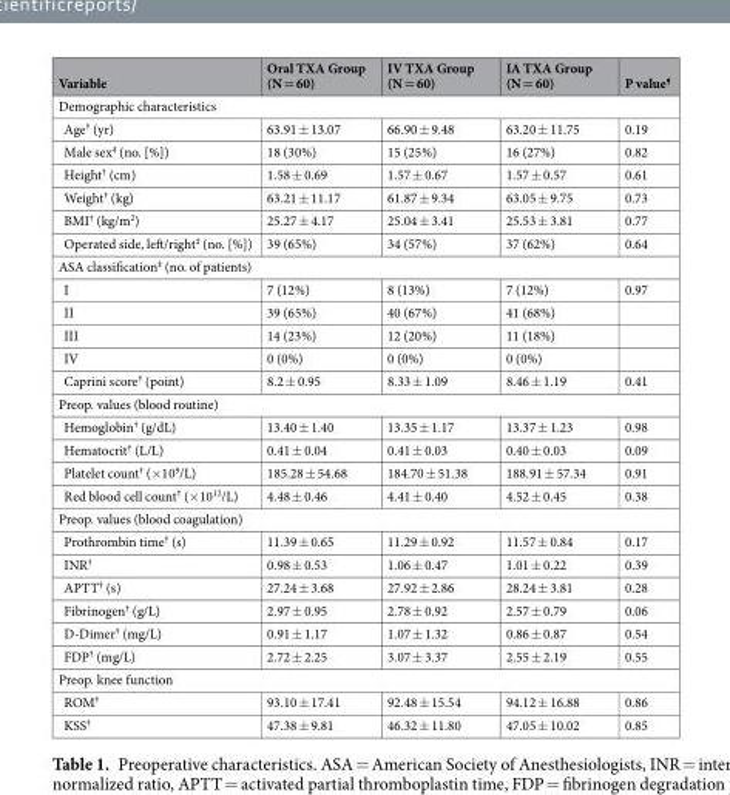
<table><thead><tr><td>Variable</td><td>Oral TXA Group (N = 60)</td><td>IV TXA Group (N = 60)</td><td>IA TXA Group (N = 60)</td><td>P value<sup>¶</sup></td></tr></thead><tbody><tr><td colspan="5">Demographic characteristics</td></tr><tr><td>Age<sup>†</sup> (yr)</td><td>63.91 ± 13.07</td><td>66.90 ± 9.48</td><td>63.20 ± 11.75</td><td>0.19</td></tr><tr><td>Male sex<sup>‡</sup> (no. [%])</td><td>18 (30%)</td><td>15 (25%)</td><td>16 (27%)</td><td>0.82</td></tr><tr><td>Height<sup>†</sup> (cm)</td><td>1.58 ± 0.69</td><td>1.57 ± 0.67</td><td>1.57 ± 0.57</td><td>0.61</td></tr><tr><td>Weight<sup>†</sup> (kg)</td><td>63.21 ± 11.17</td><td>61.87 ± 9.34</td><td>63.05 ± 9.75</td><td>0.73</td></tr><tr><td>BMI<sup>†</sup> (kg/m<sup>2</sup>)</td><td>25.27 ± 4.17</td><td>25.04 ± 3.41</td><td>25.53 ± 3.81</td><td>0.77</td></tr><tr><td>Operated side, left/right<sup>‡</sup> (no. [%])</td><td>39 (65%)</td><td>34 (57%)</td><td>37 (62%)</td><td>0.64</td></tr><tr><td colspan="5">ASA classification<sup>‡</sup> (no. of patients)</td></tr><tr><td>I</td><td>7 (12%)</td><td>8 (13%)</td><td>7 (12%)</td><td>0.97</td></tr><tr><td>II</td><td>39 (65%)</td><td>40 (67%)</td><td>41 (68%)</td><td></td></tr><tr><td>III</td><td>14 (23%)</td><td>12 (20%)</td><td>11 (18%)</td><td></td></tr><tr><td>IV</td><td>0 (0%)</td><td>0 (0%)</td><td>0 (0%)</td><td></td></tr><tr><td>Caprini score<sup>†</sup> (point)</td><td>8.2 ± 0.95</td><td>8.33 ± 1.09</td><td>8.46 ± 1.19</td><td>0.41</td></tr><tr><td colspan="5">Preop. values (blood routine)</td></tr><tr><td>Hemoglobin<sup>†</sup> (g/dL)</td><td>13.40 ± 1.40</td><td>13.35 ± 1.17</td><td>13.37 ± 1.23</td><td>0.98</td></tr><tr><td>Hematocrit<sup>†</sup> (L/L)</td><td>0.41 ± 0.04</td><td>0.41 ± 0.03</td><td>0.40 ± 0.03</td><td>0.09</td></tr><tr><td>Platelet count<sup>†</sup> (×10<sup>9</sup>/L)</td><td>185.28 ± 54.68</td><td>184.70 ± 51.38</td><td>188.91 ± 57.34</td><td>0.91</td></tr><tr><td>Red blood cell count<sup>†</sup> (×10<sup>12</sup>/L)</td><td>4.48 ± 0.46</td><td>4.41 ± 0.40</td><td>4.52 ± 0.45</td><td>0.38</td></tr><tr><td colspan="5">Preop. values (blood coagulation)</td></tr><tr><td>Prothrombin time<sup>†</sup> (s)</td><td>11.39 ± 0.65</td><td>11.29 ± 0.92</td><td>11.57 ± 0.84</td><td>0.17</td></tr><tr><td>INR<sup>†</sup></td><td>0.98 ± 0.53</td><td>1.06 ± 0.47</td><td>1.01 ± 0.22</td><td>0.39</td></tr><tr><td>APTT<sup>†</sup> (s)</td><td>27.24 ± 3.68</td><td>27.92 ± 2.86</td><td>28.24 ± 3.81</td><td>0.28</td></tr><tr><td>Fibrinogen<sup>†</sup> (g/L)</td><td>2.97 ± 0.95</td><td>2.78 ± 0.92</td><td>2.57 ± 0.79</td><td>0.06</td></tr><tr><td>D-Dimer<sup>†</sup> (mg/L)</td><td>0.91 ± 1.17</td><td>1.07 ± 1.32</td><td>0.86 ± 0.87</td><td>0.54</td></tr><tr><td>FDP<sup>†</sup> (mg/L)</td><td>2.72 ± 2.25</td><td>3.07 ± 3.37</td><td>2.55 ± 2.19</td><td>0.55</td></tr><tr><td colspan="5">Preop. knee function</td></tr><tr><td>ROM<sup>†</sup></td><td>93.10 ± 17.41</td><td>92.48 ± 15.54</td><td>94.12 ± 16.88</td><td>0.86</td></tr><tr><td>KSS<sup>†</sup></td><td>47.38 ± 9.81</td><td>46.32 ± 11.80</td><td>47.05 ± 10.02</td><td>0.85</td></tr></tbody></table>